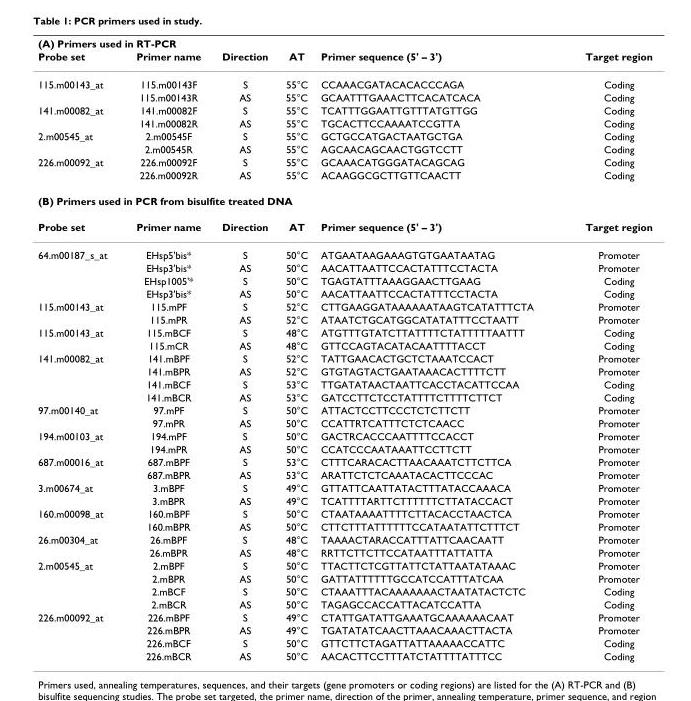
<table><thead><tr><td colspan="6">(A) Primers used in RT-PCR</td></tr><tr><td>Probe set</td><td>Primer name</td><td>Direction</td><td>AT</td><td>Primer sequence (5&#x27; – 3&#x27;)</td><td>Target region</td></tr></thead><tbody><tr><td rowspan="2">115.m00143_at</td><td>115.m00143F</td><td>S</td><td>55°C</td><td>CCAAACGATACACACCCAGA</td><td>Coding</td></tr><tr><td>115.m00143R</td><td>AS</td><td>55°C</td><td>GCAATTTGAAACTTCACATCACA</td><td>Coding</td></tr><tr><td rowspan="2">141.m00082_at</td><td>141.m00082F</td><td>S</td><td>55°C</td><td>TCATTTGGAATTGTTTATGTTGG</td><td>Coding</td></tr><tr><td>141.m00082R</td><td>AS</td><td>55°C</td><td>TGCACTTCCAAAATCCGTTA</td><td>Coding</td></tr><tr><td rowspan="2">2.m00545_at</td><td>2.m00545F</td><td>S</td><td>55°C</td><td>GCTGCCATGACTAATGCTGA</td><td>Coding</td></tr><tr><td>2.m00545R</td><td>AS</td><td>55°C</td><td>AGCAACAGCAACTGGTCCTT</td><td>Coding</td></tr><tr><td rowspan="2">226.m00092_at</td><td>226.m00092F</td><td>S</td><td>55°C</td><td>GCAAACATGGGATACAGCAG</td><td>Coding</td></tr><tr><td>226.m00092R</td><td>AS</td><td>55°C</td><td>ACAAGGCGCTTGTTCAACTT</td><td>Coding</td></tr><tr><td colspan="6">(B) Primers used in PCR from bisulfite treated DNA</td></tr><tr><td>Probe set</td><td>Primer name</td><td>Direction</td><td>AT</td><td>Primer sequence (5&#x27; – 3&#x27;)</td><td>Target region</td></tr><tr><td rowspan="4">64.m00187_s_at</td><td>EHsp5&#x27;bis*</td><td>S</td><td>50°C</td><td>ATGAATAAGAAAGTGTGAATAATAG</td><td>Promoter</td></tr><tr><td>EHsp3&#x27;bis*</td><td>AS</td><td>50°C</td><td>AACATTAATTCCACTATTTCCTACTA</td><td>Promoter</td></tr><tr><td>EHsp1005&#x27;*</td><td>S</td><td>50°C</td><td>TGAGTATTTAAAGGAACTTGAAG</td><td>Coding</td></tr><tr><td>EHsp3&#x27;bis*</td><td>AS</td><td>50°C</td><td>AACATTAATTCCACTATTTCCTACTA</td><td>Coding</td></tr><tr><td rowspan="2">115.m00143_at</td><td>115.mPF</td><td>S</td><td>52°C</td><td>CTTGAAGGATAAAAAATAAGTCATATTTCTA</td><td>Promoter</td></tr><tr><td>115.mPR</td><td>AS</td><td>52°C</td><td>ATAATCTGCATGGCATATATTTCCTAATT</td><td>Promoter</td></tr><tr><td rowspan="2">115.m00143_at</td><td>115.mBCF</td><td>S</td><td>48°C</td><td>ATGTTTGTATCTTATTTTCTATTTTTAATTT</td><td>Coding</td></tr><tr><td>115.mCR</td><td>AS</td><td>48°C</td><td>GTTCCAGTACATACAATTTTACCT</td><td>Coding</td></tr><tr><td rowspan="4">141.m00082_at</td><td>141.mBPF</td><td>S</td><td>52°C</td><td>TATTGAACACTGCTCTAAATCCACT</td><td>Promoter</td></tr><tr><td>141.mBPR</td><td>AS</td><td>52°C</td><td>GTGTAGTACTGAATAAACACTTTTCTT</td><td>Promoter</td></tr><tr><td>141.mBCF</td><td>S</td><td>53°C</td><td>TTGATATAACTAATTCACCTACATTCCAA</td><td>Coding</td></tr><tr><td>141.mBCR</td><td>AS</td><td>53°C</td><td>GATCCTTCTCCTATTTTCTTTTCTTCT</td><td>Coding</td></tr><tr><td rowspan="2">97.m00140_at</td><td>97.mPF</td><td>S</td><td>50°C</td><td>ATTACTCCTTCCCTCTCTTCTT</td><td>Promoter</td></tr><tr><td>97.mPR</td><td>AS</td><td>50°C</td><td>CCATTRTCATTTCTCTCAACC</td><td>Promoter</td></tr><tr><td rowspan="2">194.m00103_at</td><td>194.mPF</td><td>S</td><td>50°C</td><td>GACTRCACCCAATTTTCCACCT</td><td>Promoter</td></tr><tr><td>194.mPR</td><td>AS</td><td>50°C</td><td>CCATCCCAATAAATTCCTTCTT</td><td>Promoter</td></tr><tr><td rowspan="2">687.m00016_at</td><td>687.mBPF</td><td>S</td><td>53°C</td><td>CTTTCARACACTTAACAAATCTTCTTCA</td><td>Promoter</td></tr><tr><td>687.mBPR</td><td>AS</td><td>53°C</td><td>ARATTCTCTCAAATACACTTCCCAC</td><td>Promoter</td></tr><tr><td rowspan="2">3.m00674_at</td><td>3.mBPF</td><td>S</td><td>49°C</td><td>GTTATTCAATTATACTTTATACCAAACA</td><td>Promoter</td></tr><tr><td>3.mBPR</td><td>AS</td><td>49°C</td><td>TCATTTTARTTCTTTTTTCTTATACCACT</td><td>Promoter</td></tr><tr><td rowspan="2">160.m00098_at</td><td>160.mBPF</td><td>S</td><td>50°C</td><td>CTAATAAAATTTTCTTACACCTAACTCA</td><td>Promoter</td></tr><tr><td>160.mBPR</td><td>AS</td><td>50°C</td><td>CTTCTTTATTTTTTCCATAATATTCTTTCT</td><td>Promoter</td></tr><tr><td rowspan="2">26.m00304_at</td><td>26.mBPF</td><td>S</td><td>48°C</td><td>TAAAACTARACCATTTATTCAACAATT</td><td>Promoter</td></tr><tr><td>26.mBPR</td><td>AS</td><td>48°C</td><td>RRTTCTTCTTCCATAATTTATTATTA</td><td>Promoter</td></tr><tr><td rowspan="4">2.m00545_at</td><td>2.mBPF</td><td>S</td><td>50°C</td><td>TTACTTCTCGTTATTCTATTAATATAAAC</td><td>Promoter</td></tr><tr><td>2.mBPR</td><td>AS</td><td>50°C</td><td>GATTATTTTTTGCCATCCATTTATCAA</td><td>Promoter</td></tr><tr><td>2.mBCF</td><td>S</td><td>50°C</td><td>CTAAATTTACAAAAAAACTAATATACTCTC</td><td>Coding</td></tr><tr><td>2.mBCR</td><td>AS</td><td>50°C</td><td>TAGAGCCACCATTACATCCATTA</td><td>Coding</td></tr><tr><td rowspan="4">226.m00092_at</td><td>226.mBPF</td><td>S</td><td>49°C</td><td>CTATTGATATTGAAATGCAAAAAACAAT</td><td>Promoter</td></tr><tr><td>226.mBPR</td><td>AS</td><td>49°C</td><td>TGATATATCAACTTAAACAAACTTACTA</td><td>Promoter</td></tr><tr><td>226.mBCF</td><td>S</td><td>50°C</td><td>GTTCTTCTAGATTATTAAAAACCATTC</td><td>Coding</td></tr><tr><td>226.mBCR</td><td>AS</td><td>50°C</td><td>AACACTTCCTTTATCTATTTTATTTCC</td><td>Coding</td></tr></tbody></table>